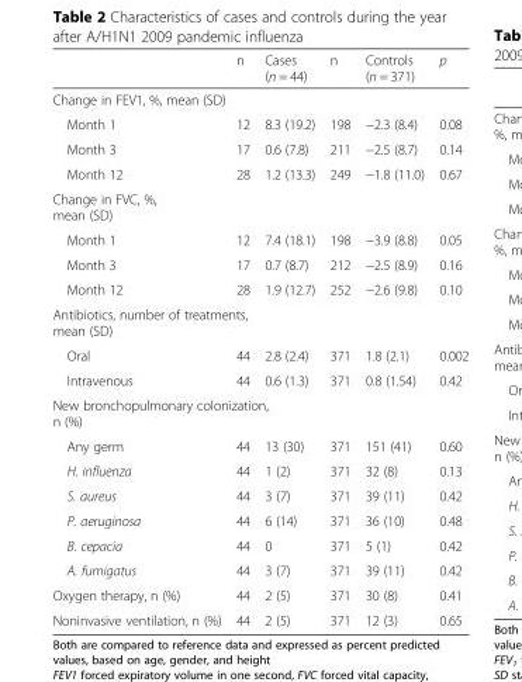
<table><thead><tr><td></td><td>n</td><td>Cases (n = 44)</td><td>n</td><td>Controls (n = 371)</td><td>p</td></tr></thead><tbody><tr><td colspan="6">Change in FEV1, %, mean (SD)</td></tr><tr><td>Month 1</td><td>12</td><td>8.3 (19.2)</td><td>198</td><td>−2.3 (8.4)</td><td>0.08</td></tr><tr><td>Month 3</td><td>17</td><td>0.6 (7.8)</td><td>211</td><td>−2.5 (8.7)</td><td>0.14</td></tr><tr><td>Month 12</td><td>28</td><td>1.2 (13.3)</td><td>249</td><td>−1.8 (11.0)</td><td>0.67</td></tr><tr><td colspan="6">Change in FVC, %, mean (SD)</td></tr><tr><td>Month 1</td><td>12</td><td>7.4 (18.1)</td><td>198</td><td>−3.9 (8.8)</td><td>0.05</td></tr><tr><td>Month 3</td><td>17</td><td>0.7 (8.7)</td><td>212</td><td>−2.5 (8.9)</td><td>0.16</td></tr><tr><td>Month 12</td><td>28</td><td>1.9 (12.7)</td><td>252</td><td>−2.6 (9.8)</td><td>0.10</td></tr><tr><td colspan="6">Antibiotics, number of treatments, mean (SD)</td></tr><tr><td>Oral</td><td>44</td><td>2.8 (2.4)</td><td>371</td><td>1.8 (2.1)</td><td>0.002</td></tr><tr><td>Intravenous</td><td>44</td><td>0.6 (1.3)</td><td>371</td><td>0.8 (1.54)</td><td>0.42</td></tr><tr><td colspan="6">New bronchopulmonary colonization, n (%)</td></tr><tr><td>Any germ</td><td>44</td><td>13 (30)</td><td>371</td><td>151 (41)</td><td>0.60</td></tr><tr><td>H. influenza</td><td>44</td><td>1 (2)</td><td>371</td><td>32 (8)</td><td>0.13</td></tr><tr><td>S. aureus</td><td>44</td><td>3 (7)</td><td>371</td><td>39 (11)</td><td>0.42</td></tr><tr><td>P. aeruginosa</td><td>44</td><td>6 (14)</td><td>371</td><td>36 (10)</td><td>0.48</td></tr><tr><td>B. cepacia</td><td>44</td><td>0</td><td>371</td><td>5 (1)</td><td>0.42</td></tr><tr><td>A. fumigatus</td><td>44</td><td>3 (7)</td><td>371</td><td>39 (11)</td><td>0.42</td></tr><tr><td>Oxygen therapy, n (%)</td><td>44</td><td>2 (5)</td><td>371</td><td>30 (8)</td><td>0.41</td></tr><tr><td>Noninvasive ventilation, n (%)</td><td>44</td><td>2 (5)</td><td>371</td><td>12 (3)</td><td>0.65</td></tr></tbody></table>